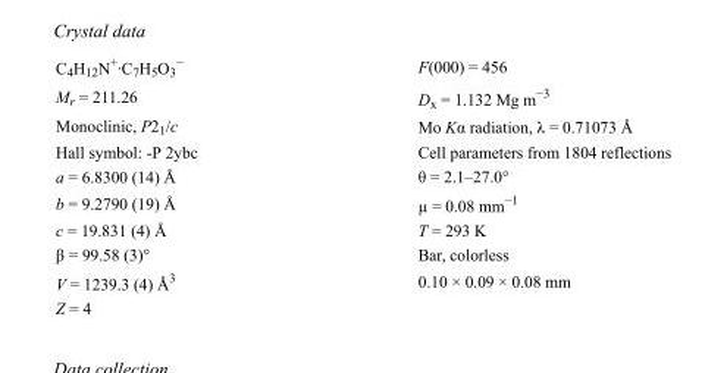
<table><tbody><tr><td>C<sub>4</sub>H<sub>12</sub>N<sup>+</sup>·C<sub>7</sub>H<sub>5</sub>O<sub>3</sub> <sup>−</sup></td><td>F(000) = 456</td></tr><tr><td>M<sub>r</sub> = 211.26</td><td>D<sub>x</sub> = 1.132 Mg m<sup>−3</sup></td></tr><tr><td>Monoclinic, P2<sub>1</sub>/c</td><td>Mo Kα radiation, λ = 0.71073 Å</td></tr><tr><td>Hall symbol: -P 2ybc</td><td>Cell parameters from 1804 reflections</td></tr><tr><td>a = 6.8300 (14) Å</td><td>θ = 2.1–27.0°</td></tr><tr><td>b = 9.2790 (19) Å</td><td>µ = 0.08 mm<sup>−1</sup></td></tr><tr><td>c = 19.831 (4) Å</td><td>T = 293 K</td></tr><tr><td>β = 99.58 (3)°</td><td>Bar, colorless</td></tr><tr><td>V = 1239.3 (4) Å<sup>3</sup></td><td>0.10 × 0.09 × 0.08 mm</td></tr><tr><td>Z = 4</td><td></td></tr></tbody></table>